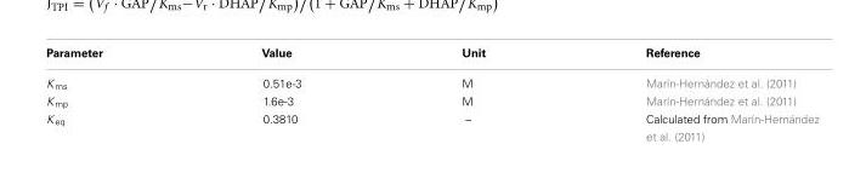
<table><thead><tr><td>Parameter</td><td>Value</td><td>Unit</td><td>Reference</td></tr></thead><tbody><tr><td>K <sub>ms</sub></td><td>0.51e-3</td><td>M</td><td>Marín-Hernández et al. (2011)</td></tr><tr><td>K <sub>mp</sub></td><td>1.6e-3</td><td>M</td><td>Marín-Hernández et al. (2011)</td></tr><tr><td>K <sub>eq</sub></td><td>0.3810</td><td>–</td><td>Calculated from Marín-Hernández et al. (2011)</td></tr></tbody></table>